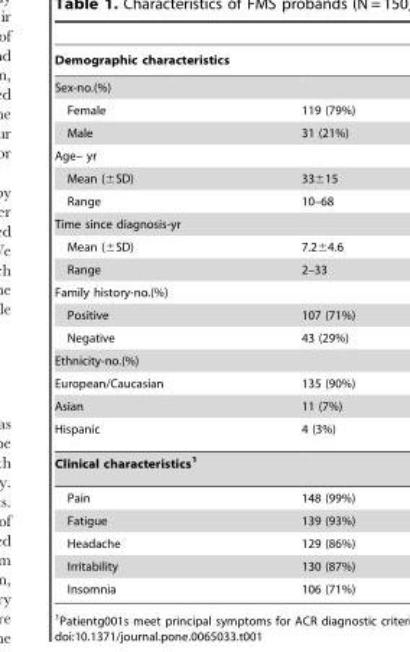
<table><thead><tr><td>Demographic characteristics</td><td></td></tr></thead><tbody><tr><td colspan="2">Sex-no.(%)</td></tr><tr><td>Female</td><td>119 (79%)</td></tr><tr><td>Male</td><td>31 (21%)</td></tr><tr><td colspan="2">Age– yr</td></tr><tr><td>Mean (±SD)</td><td>33±15</td></tr><tr><td>Range</td><td>10–68</td></tr><tr><td colspan="2">Time since diagnosis-yr</td></tr><tr><td>Mean (±SD)</td><td>7.2±4.6</td></tr><tr><td>Range</td><td>2–33</td></tr><tr><td colspan="2">Family history-no.(%)</td></tr><tr><td>Positive</td><td>107 (71%)</td></tr><tr><td>Negative</td><td>43 (29%)</td></tr><tr><td colspan="2">Ethnicity-no.(%)</td></tr><tr><td>European/Caucasian</td><td>135 (90%)</td></tr><tr><td>Asian</td><td>11 (7%)</td></tr><tr><td>Hispanic</td><td>4 (3%)</td></tr><tr><td colspan="2">Clinical characteristics1</td></tr><tr><td>Pain</td><td>148 (99%)</td></tr><tr><td>Fatigue</td><td>139 (93%)</td></tr><tr><td>Headache</td><td>129 (86%)</td></tr><tr><td>Irritability</td><td>130 (87%)</td></tr><tr><td>Insomnia</td><td>106 (71%)</td></tr></tbody></table>